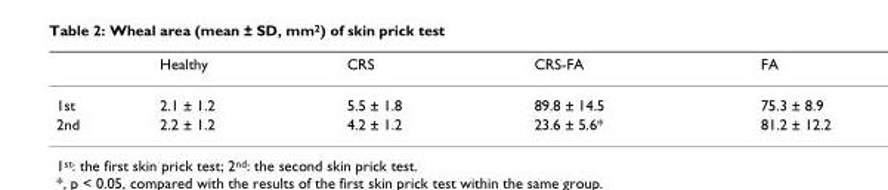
<table><thead><tr><td></td><td>Healthy</td><td>CRS</td><td>CRS-FA</td><td>FA</td></tr></thead><tbody><tr><td>1st</td><td>2.1 ± 1.2</td><td>5.5 ± 1.8</td><td>89.8 ± 14.5</td><td>75.3 ± 8.9</td></tr><tr><td>2nd</td><td>2.2 ± 1.2</td><td>4.2 ± 1.2</td><td>23.6 ± 5.6*</td><td>81.2 ± 12.2</td></tr></tbody></table>